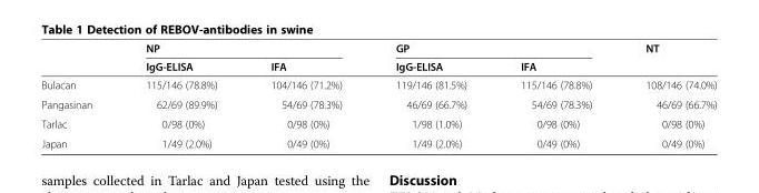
<table><thead><tr><td rowspan="2"></td><td colspan="2">NP</td><td colspan="2">GP</td><td rowspan="2">NT</td></tr><tr><td>IgG-ELISA</td><td>IFA</td><td>IgG-ELISA</td><td>IFA</td></tr></thead><tbody><tr><td>Bulacan</td><td>115/146 (78.8%)</td><td>104/146 (71.2%)</td><td>119/146 (81.5%)</td><td>115/146 (78.8%)</td><td>108/146 (74.0%)</td></tr><tr><td>Pangasinan</td><td>62/69 (89.9%)</td><td>54/69 (78.3%)</td><td>46/69 (66.7%)</td><td>54/69 (78.3%)</td><td>46/69 (66.7%)</td></tr><tr><td>Tarlac</td><td>0/98 (0%)</td><td>0/98 (0%)</td><td>1/98 (1.0%)</td><td>0/98 (0%)</td><td>0/98 (0%)</td></tr><tr><td>Japan</td><td>1/49 (2.0%)</td><td>0/49 (0%)</td><td>1/49 (2.0%)</td><td>0/49 (0%)</td><td>0/49 (0%)</td></tr></tbody></table>